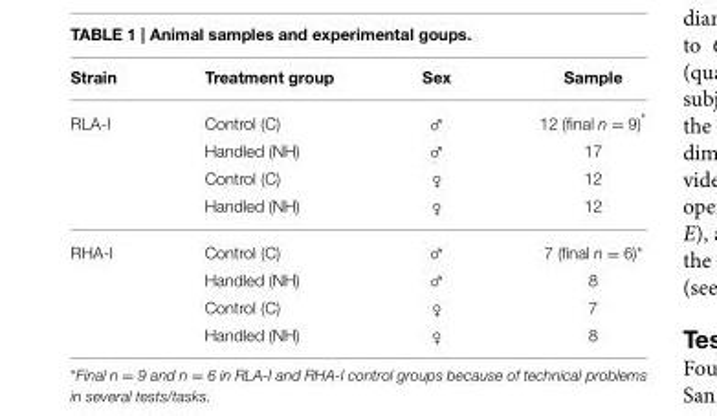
<table><thead><tr><td>Strain</td><td>Treatment group</td><td>Sex</td><td>Sample</td></tr></thead><tbody><tr><td rowspan="4">RLA-I</td><td>Control (C)</td><td>♂</td><td>12 (final n = 9)*</td></tr><tr><td>Handled (NH)</td><td>♂</td><td>17</td></tr><tr><td>Control (C)</td><td>♀</td><td>12</td></tr><tr><td>Handled (NH)</td><td>♀</td><td>12</td></tr><tr><td rowspan="4">RHA-I</td><td>Control (C)</td><td>♂</td><td>7 (final n = 6)*</td></tr><tr><td>Handled (NH)</td><td>♂</td><td>8</td></tr><tr><td>Control (C)</td><td>♀</td><td>7</td></tr><tr><td>Handled (NH)</td><td>♀</td><td>8</td></tr></tbody></table>